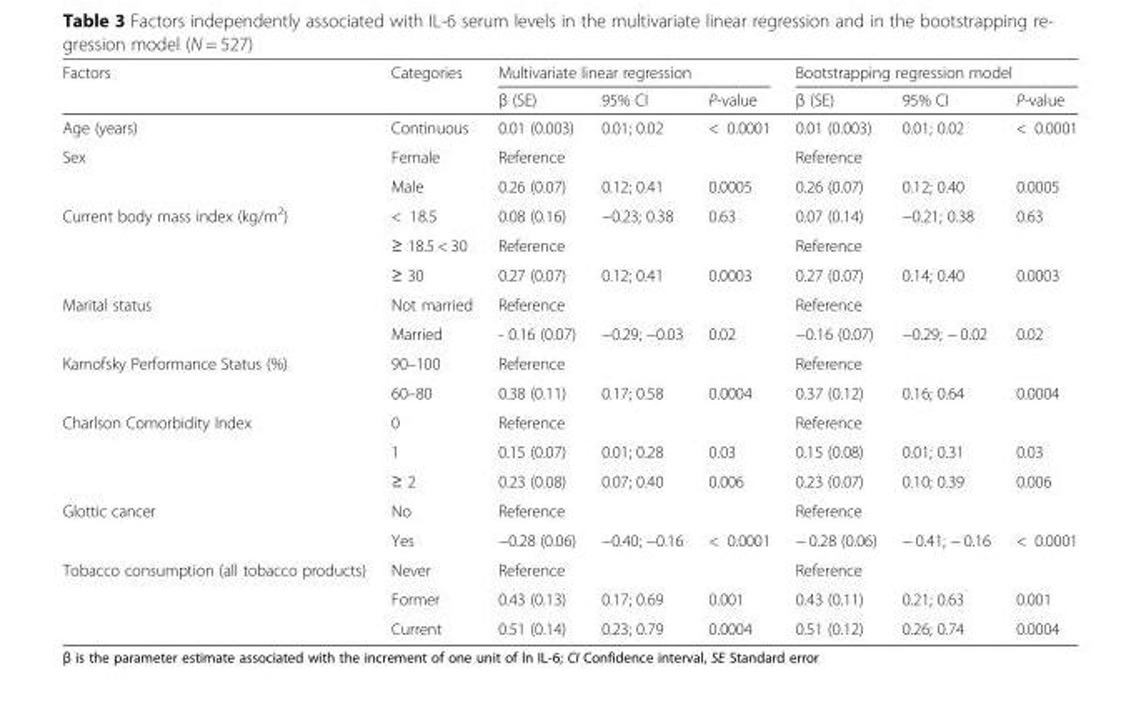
<table><thead><tr><td rowspan="2">Factors</td><td rowspan="2">Categories</td><td colspan="3">Multivariate linear regression</td><td colspan="3">Bootstrapping regression model</td></tr><tr><td>β (SE)</td><td>95% CI</td><td>P-value</td><td>β (SE)</td><td>95% CI</td><td>P-value</td></tr></thead><tbody><tr><td>Age (years)</td><td>Continuous</td><td>0.01 (0.003)</td><td>0.01; 0.02</td><td>&lt; 0.0001</td><td>0.01 (0.003)</td><td>0.01; 0.02</td><td>&lt; 0.0001</td></tr><tr><td rowspan="2">Sex</td><td>Female</td><td>Reference</td><td></td><td></td><td>Reference</td><td></td><td></td></tr><tr><td>Male</td><td>0.26 (0.07)</td><td>0.12; 0.41</td><td>0.0005</td><td>0.26 (0.07)</td><td>0.12; 0.40</td><td>0.0005</td></tr><tr><td rowspan="3">Current body mass index (kg/m<sup>2</sup>)</td><td>&lt; 18.5</td><td>0.08 (0.16)</td><td>−0.23; 0.38</td><td>0.63</td><td>0.07 (0.14)</td><td>−0.21; 0.38</td><td>0.63</td></tr><tr><td>≥ 18.5 &lt; 30</td><td>Reference</td><td></td><td></td><td>Reference</td><td></td><td></td></tr><tr><td>≥ 30</td><td>0.27 (0.07)</td><td>0.12; 0.41</td><td>0.0003</td><td>0.27 (0.07)</td><td>0.14; 0.40</td><td>0.0003</td></tr><tr><td rowspan="2">Marital status</td><td>Not married</td><td>Reference</td><td></td><td></td><td>Reference</td><td></td><td></td></tr><tr><td>Married</td><td>- 0.16 (0.07)</td><td>−0.29; −0.03</td><td>0.02</td><td>−0.16 (0.07)</td><td>−0.29; − 0.02</td><td>0.02</td></tr><tr><td rowspan="2">Karnofsky Performance Status (%)</td><td>90–100</td><td>Reference</td><td></td><td></td><td>Reference</td><td></td><td></td></tr><tr><td>60–80</td><td>0.38 (0.11)</td><td>0.17; 0.58</td><td>0.0004</td><td>0.37 (0.12)</td><td>0.16; 0.64</td><td>0.0004</td></tr><tr><td rowspan="3">Charlson Comorbidity Index</td><td>0</td><td>Reference</td><td></td><td></td><td>Reference</td><td></td><td></td></tr><tr><td>1</td><td>0.15 (0.07)</td><td>0.01; 0.28</td><td>0.03</td><td>0.15 (0.08)</td><td>0.01; 0.31</td><td>0.03</td></tr><tr><td>≥ 2</td><td>0.23 (0.08)</td><td>0.07; 0.40</td><td>0.006</td><td>0.23 (0.07)</td><td>0.10; 0.39</td><td>0.006</td></tr><tr><td rowspan="2">Glottic cancer</td><td>No</td><td>Reference</td><td></td><td></td><td>Reference</td><td></td><td></td></tr><tr><td>Yes</td><td>−0.28 (0.06)</td><td>−0.40; −0.16</td><td>&lt; 0.0001</td><td>− 0.28 (0.06)</td><td>− 0.41; − 0.16</td><td>&lt; 0.0001</td></tr><tr><td rowspan="3">Tobacco consumption (all tobacco products)</td><td>Never</td><td>Reference</td><td></td><td></td><td>Reference</td><td></td><td></td></tr><tr><td>Former</td><td>0.43 (0.13)</td><td>0.17; 0.69</td><td>0.001</td><td>0.43 (0.11)</td><td>0.21; 0.63</td><td>0.001</td></tr><tr><td>Current</td><td>0.51 (0.14)</td><td>0.23; 0.79</td><td>0.0004</td><td>0.51 (0.12)</td><td>0.26; 0.74</td><td>0.0004</td></tr></tbody></table>